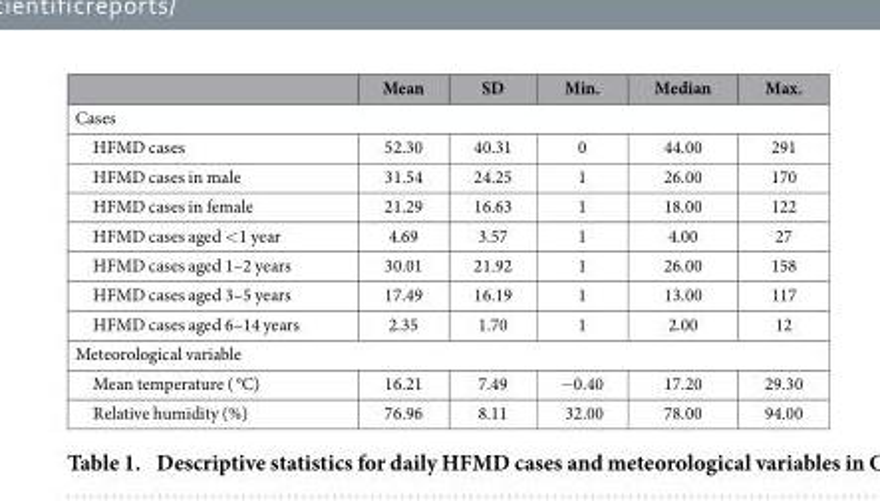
<table><thead><tr><td></td><td>Mean</td><td>SD</td><td>Min.</td><td>Median</td><td>Max.</td></tr></thead><tbody><tr><td colspan="6">Cases</td></tr><tr><td>HFMD cases</td><td>52.30</td><td>40.31</td><td>0</td><td>44.00</td><td>291</td></tr><tr><td>HFMD cases in male</td><td>31.54</td><td>24.25</td><td>1</td><td>26.00</td><td>170</td></tr><tr><td>HFMD cases in female</td><td>21.29</td><td>16.63</td><td>1</td><td>18.00</td><td>122</td></tr><tr><td>HFMD cases aged &lt; 1 year</td><td>4.69</td><td>3.57</td><td>1</td><td>4.00</td><td>27</td></tr><tr><td>HFMD cases aged 1–2 years</td><td>30.01</td><td>21.92</td><td>1</td><td>26.00</td><td>158</td></tr><tr><td>HFMD cases aged 3–5 years</td><td>17.49</td><td>16.19</td><td>1</td><td>13.00</td><td>117</td></tr><tr><td>HFMD cases aged 6–14 years</td><td>2.35</td><td>1.70</td><td>1</td><td>2.00</td><td>12</td></tr><tr><td colspan="6">Meteorological variable</td></tr><tr><td>Mean temperature ( °C)</td><td>16.21</td><td>7.49</td><td>− 0.40</td><td>17.20</td><td>29.30</td></tr><tr><td>Relative humidity (%)</td><td>76.96</td><td>8.11</td><td>32.00</td><td>78.00</td><td>94.00</td></tr></tbody></table>